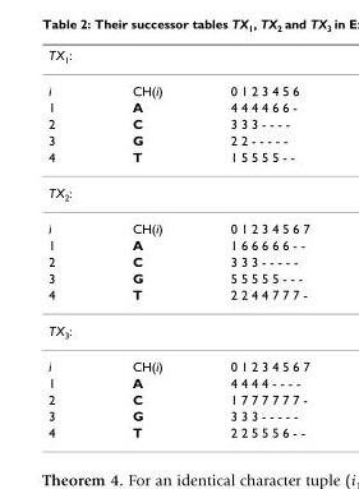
<table><thead><tr><td>TX1:</td><td></td><td></td></tr></thead><tbody><tr><td>i</td><td>CH(i)</td><td>0 1 2 3 4 5 6</td></tr><tr><td>1</td><td>A</td><td>4 4 4 4 6 6 -</td></tr><tr><td>2</td><td>C</td><td>3 3 3 - - - -</td></tr><tr><td>3</td><td>G</td><td>2 2 - - - - -</td></tr><tr><td>4</td><td>T</td><td>1 5 5 5 5 - -</td></tr><tr><td colspan="3">TX2:</td></tr><tr><td>i</td><td>CH(i)</td><td>0 1 2 3 4 5 6 7</td></tr><tr><td>1</td><td>A</td><td>1 6 6 6 6 6 - -</td></tr><tr><td>2</td><td>C</td><td>3 3 3 - - - - -</td></tr><tr><td>3</td><td>G</td><td>5 5 5 5 5 - - -</td></tr><tr><td>4</td><td>T</td><td>2 2 4 4 7 7 7 -</td></tr><tr><td colspan="3">TX3:</td></tr><tr><td>i</td><td>CH(i)</td><td>0 1 2 3 4 5 6 7</td></tr><tr><td>1</td><td>A</td><td>4 4 4 4 - - - -</td></tr><tr><td>2</td><td>C</td><td>1 7 7 7 7 7 7 -</td></tr><tr><td>3</td><td>G</td><td>3 3 3 - - - - -</td></tr><tr><td>4</td><td>T</td><td>2 2 5 5 5 6 - -</td></tr></tbody></table>